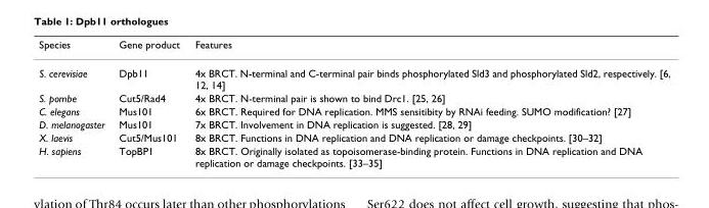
<table><thead><tr><td>Species</td><td>Gene product</td><td>Features</td></tr></thead><tbody><tr><td>S. cerevisiae</td><td>Dpb11</td><td>4x BRCT. N-terminal and C-terminal pair binds phosphorylated Sld3 and phosphorylated Sld2, respectively. [6, 12, 14]</td></tr><tr><td>S. pombe</td><td>Cut5/Rad4</td><td>4x BRCT. N-terminal pair is shown to bind Drc1. [25, 26]</td></tr><tr><td>C. elegans</td><td>Mus101</td><td>6x BRCT. Required for DNA replication. MMS sensitibity by RNAi feeding. SUMO modification? [27]</td></tr><tr><td>D. melanogaster</td><td>Mus101</td><td>7x BRCT. Involvement in DNA replication is suggested. [28, 29]</td></tr><tr><td>X. laevis</td><td>Cut5/Mus101</td><td>8x BRCT. Functions in DNA replication and DNA replication or damage checkpoints. [30–32]</td></tr><tr><td>H. sapiens</td><td>TopBP1</td><td>8x BRCT. Originally isolated as topoisomerase-binding protein. Functions in DNA replication and DNA replication or damage checkpoints. [33–35]</td></tr></tbody></table>